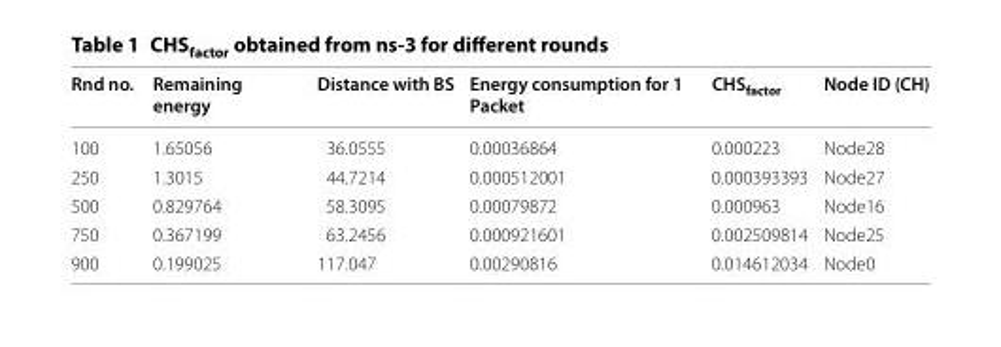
<table><thead><tr><td>Rnd no.</td><td>Remaining energy</td><td>Distance with BS</td><td>Energy consumption for 1 Packet</td><td>CHS<sub>factor</sub></td><td>Node ID (CH)</td></tr></thead><tbody><tr><td>100</td><td>1.65056</td><td>36.0555</td><td>0.00036864</td><td>0.000223</td><td>Node28</td></tr><tr><td>250</td><td>1.3015</td><td>44.7214</td><td>0.000512001</td><td>0.000393393</td><td>Node27</td></tr><tr><td>500</td><td>0.829764</td><td>58.3095</td><td>0.00079872</td><td>0.000963</td><td>Node16</td></tr><tr><td>750</td><td>0.367199</td><td>63.2456</td><td>0.000921601</td><td>0.002509814</td><td>Node25</td></tr><tr><td>900</td><td>0.199025</td><td>117.047</td><td>0.00290816</td><td>0.014612034</td><td>Node0</td></tr></tbody></table>